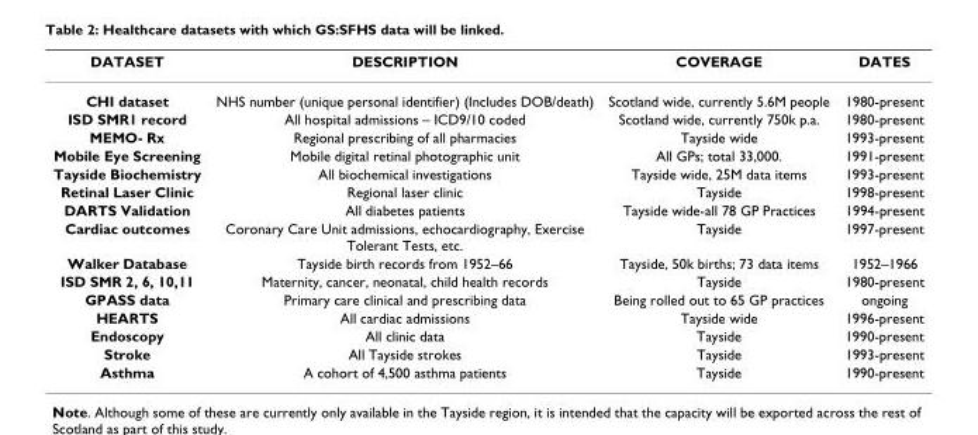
<table><thead><tr><td>DATASET</td><td>DESCRIPTION</td><td>COVERAGE</td><td>DATES</td></tr></thead><tbody><tr><td>CHI dataset</td><td>NHS number (unique personal identifier) (Includes DOB/death)</td><td>Scotland wide, currently 5.6M people</td><td>1980-present</td></tr><tr><td>ISD SMR1 record</td><td>All hospital admissions – ICD9/10 coded</td><td>Scotland wide, currently 750k p.a.</td><td>1980-present</td></tr><tr><td>MEMO- Rx</td><td>Regional prescribing of all pharmacies</td><td>Tayside wide</td><td>1993-present</td></tr><tr><td>Mobile Eye Screening</td><td>Mobile digital retinal photographic unit</td><td>All GPs; total 33,000.</td><td>1991-present</td></tr><tr><td>Tayside Biochemistry</td><td>All biochemical investigations</td><td>Tayside wide, 25M data items</td><td>1993-present</td></tr><tr><td>Retinal Laser Clinic</td><td>Regional laser clinic</td><td>Tayside</td><td>1998-present</td></tr><tr><td>DARTS Validation</td><td>All diabetes patients</td><td>Tayside wide-all 78 GP Practices</td><td>1994-present</td></tr><tr><td>Cardiac outcomes</td><td>Coronary Care Unit admissions, echocardiography, Exercise Tolerant Tests, etc.</td><td>Tayside</td><td>1997-present</td></tr><tr><td>Walker Database</td><td>Tayside birth records from 1952–66</td><td>Tayside, 50k births; 73 data items</td><td>1952–1966</td></tr><tr><td>ISD SMR 2, 6, 10,11</td><td>Maternity, cancer, neonatal, child health records</td><td>Tayside</td><td>1980-present</td></tr><tr><td>GPASS data</td><td>Primary care clinical and prescribing data</td><td>Being rolled out to 65 GP practices</td><td>ongoing</td></tr><tr><td>HEARTS</td><td>All cardiac admissions</td><td>Tayside wide</td><td>1996-present</td></tr><tr><td>Endoscopy</td><td>All clinic data</td><td>Tayside</td><td>1990-present</td></tr><tr><td>Stroke</td><td>All Tayside strokes</td><td>Tayside</td><td>1993-present</td></tr><tr><td>Asthma</td><td>A cohort of 4,500 asthma patients</td><td>Tayside</td><td>1990-present</td></tr></tbody></table>